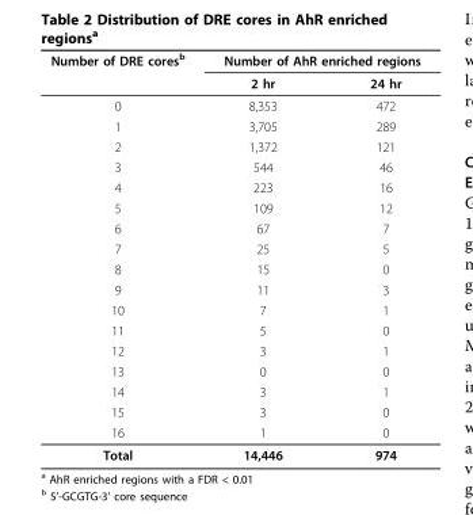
<table><thead><tr><td rowspan="2">Number of DRE cores<sup>b</sup></td><td colspan="2">Number of AhR enriched regions</td></tr><tr><td>2 hr</td><td>24 hr</td></tr></thead><tbody><tr><td>0</td><td>8,353</td><td>472</td></tr><tr><td>1</td><td>3,705</td><td>289</td></tr><tr><td>2</td><td>1,372</td><td>121</td></tr><tr><td>3</td><td>544</td><td>46</td></tr><tr><td>4</td><td>223</td><td>16</td></tr><tr><td>5</td><td>109</td><td>12</td></tr><tr><td>6</td><td>67</td><td>7</td></tr><tr><td>7</td><td>25</td><td>5</td></tr><tr><td>8</td><td>15</td><td>0</td></tr><tr><td>9</td><td>11</td><td>3</td></tr><tr><td>10</td><td>7</td><td>1</td></tr><tr><td>11</td><td>5</td><td>0</td></tr><tr><td>12</td><td>3</td><td>1</td></tr><tr><td>13</td><td>0</td><td>0</td></tr><tr><td>14</td><td>3</td><td>1</td></tr><tr><td>15</td><td>3</td><td>0</td></tr><tr><td>16</td><td>1</td><td>0</td></tr><tr><td>Total</td><td>14,446</td><td>974</td></tr></tbody></table>